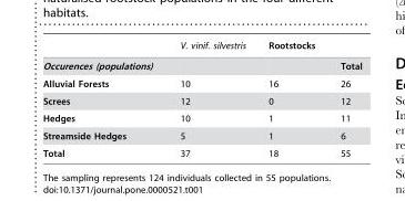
<table><thead><tr><td></td><td>V. vinif. silvestris</td><td>Rootstocks</td><td></td></tr></thead><tbody><tr><td>Occurences (populations)</td><td></td><td></td><td>Total</td></tr><tr><td>Alluvial Forests</td><td>10</td><td>16</td><td>26</td></tr><tr><td>Screes</td><td>12</td><td>0</td><td>12</td></tr><tr><td>Hedges</td><td>10</td><td>1</td><td>11</td></tr><tr><td>Streamside Hedges</td><td>5</td><td>1</td><td>6</td></tr><tr><td>Total</td><td>37</td><td>18</td><td>55</td></tr></tbody></table>